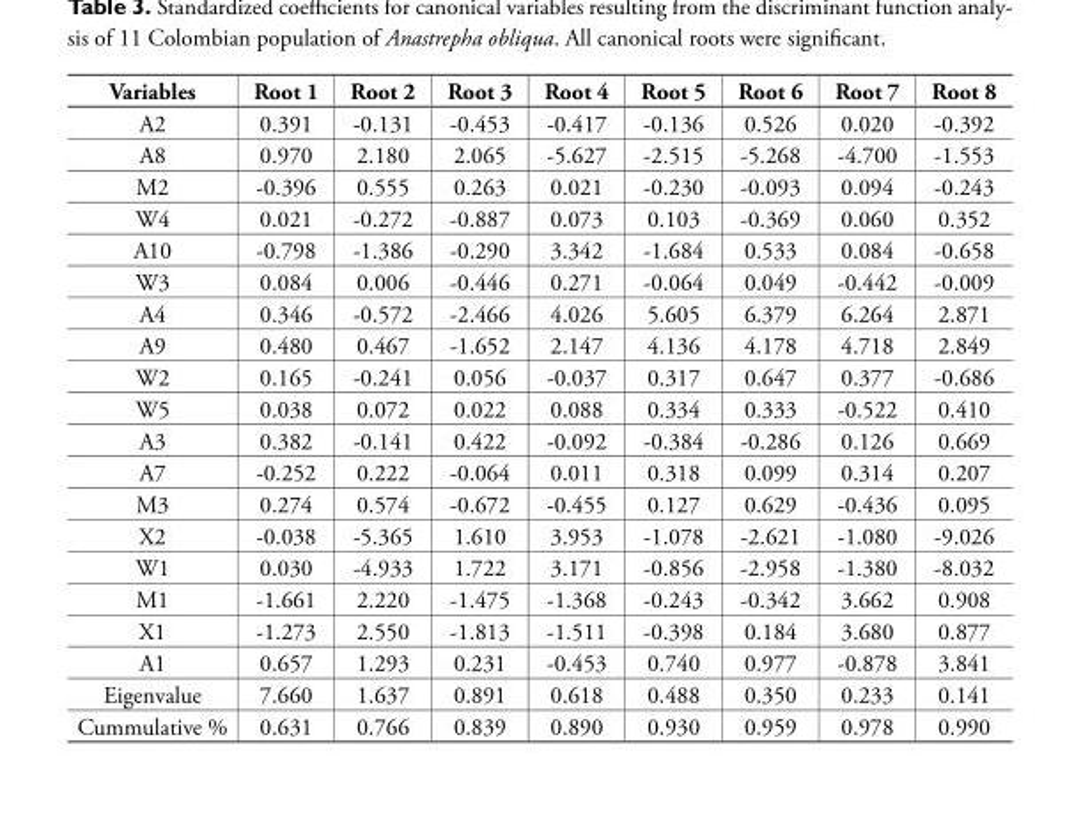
<table><thead><tr><td>Variables</td><td>Root 1</td><td>Root 2</td><td>Root 3</td><td>Root 4</td><td>Root 5</td><td>Root 6</td><td>Root 7</td><td>Root 8</td></tr></thead><tbody><tr><td>A2</td><td>0.391</td><td>-0.131</td><td>-0.453</td><td>-0.417</td><td>-0.136</td><td>0.526</td><td>0.020</td><td>-0.392</td></tr><tr><td>A8</td><td>0.970</td><td>2.180</td><td>2.065</td><td>-5.627</td><td>-2.515</td><td>-5.268</td><td>-4.700</td><td>-1.553</td></tr><tr><td>M2</td><td>-0.396</td><td>0.555</td><td>0.263</td><td>0.021</td><td>-0.230</td><td>-0.093</td><td>0.094</td><td>-0.243</td></tr><tr><td>W4</td><td>0.021</td><td>-0.272</td><td>-0.887</td><td>0.073</td><td>0.103</td><td>-0.369</td><td>0.060</td><td>0.352</td></tr><tr><td>A10</td><td>-0.798</td><td>-1.386</td><td>-0.290</td><td>3.342</td><td>-1.684</td><td>0.533</td><td>0.084</td><td>-0.658</td></tr><tr><td>W3</td><td>0.084</td><td>0.006</td><td>-0.446</td><td>0.271</td><td>-0.064</td><td>0.049</td><td>-0.442</td><td>-0.009</td></tr><tr><td>A4</td><td>0.346</td><td>-0.572</td><td>-2.466</td><td>4.026</td><td>5.605</td><td>6.379</td><td>6.264</td><td>2.871</td></tr><tr><td>A9</td><td>0.480</td><td>0.467</td><td>-1.652</td><td>2.147</td><td>4.136</td><td>4.178</td><td>4.718</td><td>2.849</td></tr><tr><td>W2</td><td>0.165</td><td>-0.241</td><td>0.056</td><td>-0.037</td><td>0.317</td><td>0.647</td><td>0.377</td><td>-0.686</td></tr><tr><td>W5</td><td>0.038</td><td>0.072</td><td>0.022</td><td>0.088</td><td>0.334</td><td>0.333</td><td>-0.522</td><td>0.410</td></tr><tr><td>A3</td><td>0.382</td><td>-0.141</td><td>0.422</td><td>-0.092</td><td>-0.384</td><td>-0.286</td><td>0.126</td><td>0.669</td></tr><tr><td>A7</td><td>-0.252</td><td>0.222</td><td>-0.064</td><td>0.011</td><td>0.318</td><td>0.099</td><td>0.314</td><td>0.207</td></tr><tr><td>M3</td><td>0.274</td><td>0.574</td><td>-0.672</td><td>-0.455</td><td>0.127</td><td>0.629</td><td>-0.436</td><td>0.095</td></tr><tr><td>X2</td><td>-0.038</td><td>-5.365</td><td>1.610</td><td>3.953</td><td>-1.078</td><td>-2.621</td><td>-1.080</td><td>-9.026</td></tr><tr><td>W1</td><td>0.030</td><td>-4.933</td><td>1.722</td><td>3.171</td><td>-0.856</td><td>-2.958</td><td>-1.380</td><td>-8.032</td></tr><tr><td>M1</td><td>-1.661</td><td>2.220</td><td>-1.475</td><td>-1.368</td><td>-0.243</td><td>-0.342</td><td>3.662</td><td>0.908</td></tr><tr><td>X1</td><td>-1.273</td><td>2.550</td><td>-1.813</td><td>-1.511</td><td>-0.398</td><td>0.184</td><td>3.680</td><td>0.877</td></tr><tr><td>A1</td><td>0.657</td><td>1.293</td><td>0.231</td><td>-0.453</td><td>0.740</td><td>0.977</td><td>-0.878</td><td>3.841</td></tr><tr><td>Eigenvalue</td><td>7.660</td><td>1.637</td><td>0.891</td><td>0.618</td><td>0.488</td><td>0.350</td><td>0.233</td><td>0.141</td></tr><tr><td>Cummulative %</td><td>0.631</td><td>0.766</td><td>0.839</td><td>0.890</td><td>0.930</td><td>0.959</td><td>0.978</td><td>0.990</td></tr></tbody></table>